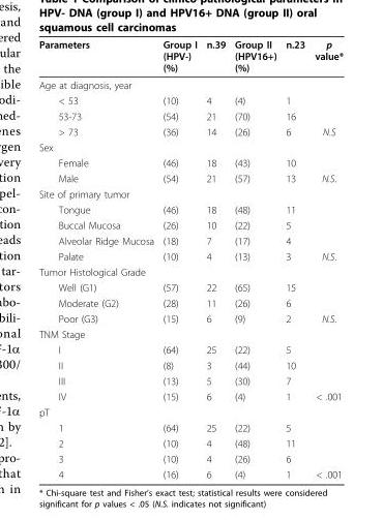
<table><thead><tr><td>Parameters</td><td>Group I (HPV-) (%)</td><td>n.39</td><td>Group II (HPV16+) (%)</td><td>n.23</td><td>p value*</td></tr></thead><tbody><tr><td colspan="6">Age at diagnosis, year</td></tr><tr><td>&lt; 53</td><td>(10)</td><td>4</td><td>(4)</td><td>1</td><td></td></tr><tr><td>53-73</td><td>(54)</td><td>21</td><td>(70)</td><td>16</td><td></td></tr><tr><td>&gt; 73</td><td>(36)</td><td>14</td><td>(26)</td><td>6</td><td>N.S</td></tr><tr><td colspan="6">Sex</td></tr><tr><td>Female</td><td>(46)</td><td>18</td><td>(43)</td><td>10</td><td></td></tr><tr><td>Male</td><td>(54)</td><td>21</td><td>(57)</td><td>13</td><td>N.S.</td></tr><tr><td colspan="6">Site of primary tumor</td></tr><tr><td>Tongue</td><td>(46)</td><td>18</td><td>(48)</td><td>11</td><td></td></tr><tr><td>Buccal Mucosa</td><td>(26)</td><td>10</td><td>(22)</td><td>5</td><td></td></tr><tr><td>Alveolar Ridge Mucosa</td><td>(18)</td><td>7</td><td>(17)</td><td>4</td><td></td></tr><tr><td>Palate</td><td>(10)</td><td>4</td><td>(13)</td><td>3</td><td>N.S.</td></tr><tr><td colspan="6">Tumor Histological Grade</td></tr><tr><td>Well (G1)</td><td>(57)</td><td>22</td><td>(65)</td><td>15</td><td></td></tr><tr><td>Moderate (G2)</td><td>(28)</td><td>11</td><td>(26)</td><td>6</td><td></td></tr><tr><td>Poor (G3)</td><td>(15)</td><td>6</td><td>(9)</td><td>2</td><td>N.S.</td></tr><tr><td colspan="6">TNM Stage</td></tr><tr><td>I</td><td>(64)</td><td>25</td><td>(22)</td><td>5</td><td></td></tr><tr><td>II</td><td>(8)</td><td>3</td><td>(44)</td><td>10</td><td></td></tr><tr><td>III</td><td>(13)</td><td>5</td><td>(30)</td><td>7</td><td></td></tr><tr><td>IV</td><td>(15)</td><td>6</td><td>(4)</td><td>1</td><td>&lt; .001</td></tr><tr><td colspan="6">pT</td></tr><tr><td>1</td><td>(64)</td><td>25</td><td>(22)</td><td>5</td><td></td></tr><tr><td>2</td><td>(10)</td><td>4</td><td>(48)</td><td>11</td><td></td></tr><tr><td>3</td><td>(10)</td><td>4</td><td>(26)</td><td>6</td><td></td></tr><tr><td>4</td><td>(16)</td><td>6</td><td>(4)</td><td>1</td><td>&lt; .001</td></tr></tbody></table>